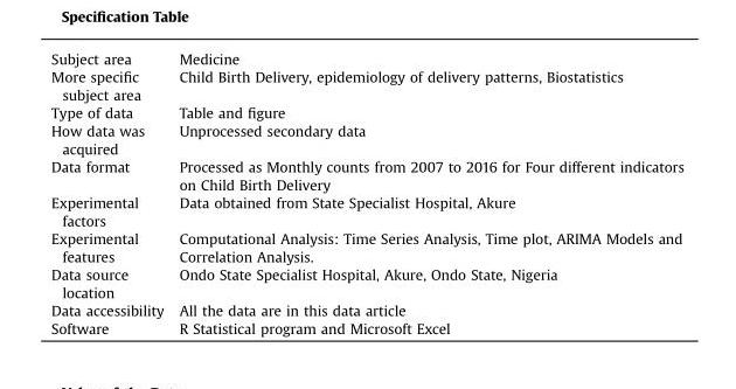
<table><tbody><tr><td>Subject area</td><td>Medicine</td></tr><tr><td>More specific subject area</td><td>Child Birth Delivery, epidemiology of delivery patterns, Biostatistics</td></tr><tr><td>Type of data</td><td>Table and figure</td></tr><tr><td>How data was acquired</td><td>Unprocessed secondary data</td></tr><tr><td>Data format</td><td>Processed as Monthly counts from 2007 to 2016 for Four different indicators on Child Birth Delivery</td></tr><tr><td>Experimental factors</td><td>Data obtained from State Specialist Hospital, Akure</td></tr><tr><td>Experimental features</td><td>Computational Analysis: Time Series Analysis, Time plot, ARIMA Models and Correlation Analysis.</td></tr><tr><td>Data source location</td><td>Ondo State Specialist Hospital, Akure, Ondo State, Nigeria</td></tr><tr><td>Data accessibility</td><td>All the data are in this data article</td></tr><tr><td>Software</td><td>R Statistical program and Microsoft Excel</td></tr></tbody></table>